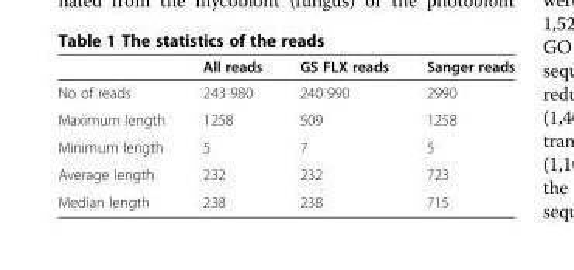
<table><thead><tr><td></td><td>All reads</td><td>GS FLX reads</td><td>Sanger reads</td></tr></thead><tbody><tr><td>No of reads</td><td>243 980</td><td>240 990</td><td>2990</td></tr><tr><td>Maximum length</td><td>1258</td><td>509</td><td>1258</td></tr><tr><td>Minimum length</td><td>5</td><td>7</td><td>5</td></tr><tr><td>Average length</td><td>232</td><td>232</td><td>723</td></tr><tr><td>Median length</td><td>238</td><td>238</td><td>715</td></tr></tbody></table>